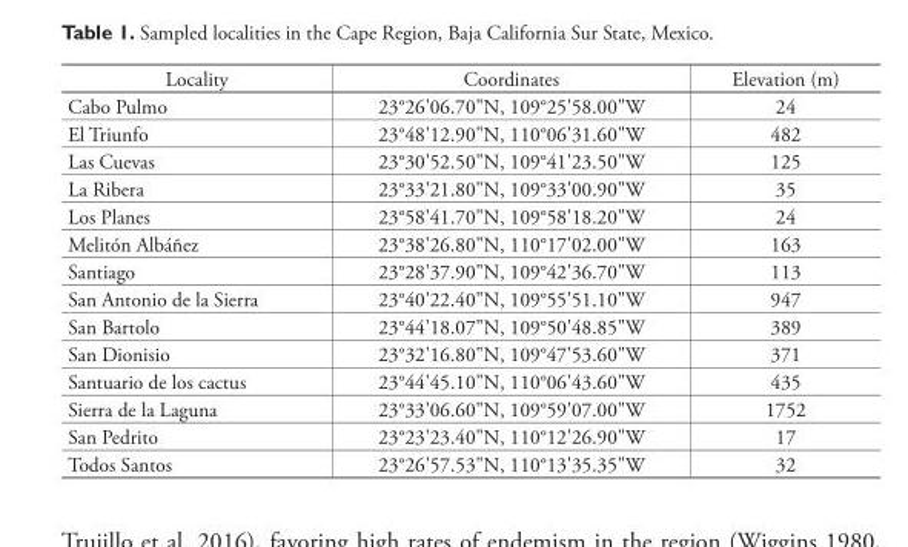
<table><thead><tr><td>Locality</td><td>Coordinates</td><td>Elevation (m)</td></tr></thead><tbody><tr><td>Cabo Pulmo</td><td>23°26&#x27;06.70&quot;N, 109°25&#x27;58.00&quot;W</td><td>24</td></tr><tr><td>El Triunfo</td><td>23°48&#x27;12.90&quot;N, 110°06&#x27;31.60&quot;W</td><td>482</td></tr><tr><td>Las Cuevas</td><td>23°30&#x27;52.50&quot;N, 109°41&#x27;23.50&quot;W</td><td>125</td></tr><tr><td>La Ribera</td><td>23°33&#x27;21.80&quot;N, 109°33&#x27;00.90&quot;W</td><td>35</td></tr><tr><td>Los Planes</td><td>23°58&#x27;41.70&quot;N, 109°58&#x27;18.20&quot;W</td><td>24</td></tr><tr><td>Melitón Albáñez</td><td>23°38&#x27;26.80&quot;N, 110°17&#x27;02.00&quot;W</td><td>163</td></tr><tr><td>Santiago</td><td>23°28&#x27;37.90&quot;N, 109°42&#x27;36.70&quot;W</td><td>113</td></tr><tr><td>San Antonio de la Sierra</td><td>23°40&#x27;22.40&quot;N, 109°55&#x27;51.10&quot;W</td><td>947</td></tr><tr><td>San Bartolo</td><td>23°44&#x27;18.07&quot;N, 109°50&#x27;48.85&quot;W</td><td>389</td></tr><tr><td>San Dionisio</td><td>23°32&#x27;16.80&quot;N, 109°47&#x27;53.60&quot;W</td><td>371</td></tr><tr><td>Santuario de los cactus</td><td>23°44&#x27;45.10&quot;N, 110°06&#x27;43.60&quot;W</td><td>435</td></tr><tr><td>Sierra de la Laguna</td><td>23°33&#x27;06.60&quot;N, 109°59&#x27;07.00&quot;W</td><td>1752</td></tr><tr><td>San Pedrito</td><td>23°23&#x27;23.40&quot;N, 110°12&#x27;26.90&quot;W</td><td>17</td></tr><tr><td>Todos Santos</td><td>23°26&#x27;57.53&quot;N, 110°13&#x27;35.35&quot;W</td><td>32</td></tr></tbody></table>